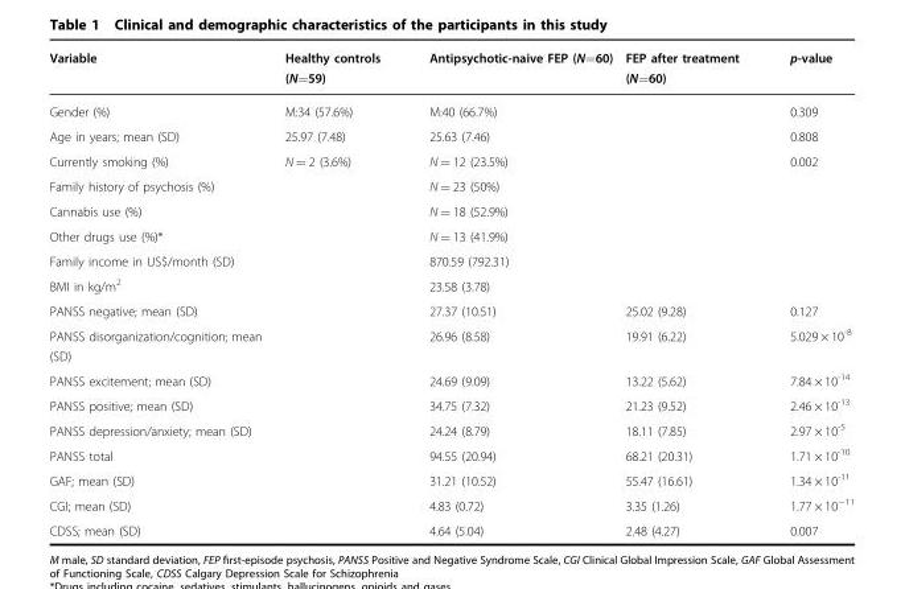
<table><thead><tr><td>Variable</td><td>Healthy controls (N=59)</td><td>Antipsychotic-naive FEP (N=60)</td><td>FEP after treatment (N=60)</td><td>p-value</td></tr></thead><tbody><tr><td>Gender (%)</td><td>M:34 (57.6%)</td><td>M:40 (66.7%)</td><td></td><td>0.309</td></tr><tr><td>Age in years; mean (SD)</td><td>25.97 (7.48)</td><td>25.63 (7.46)</td><td></td><td>0.808</td></tr><tr><td>Currently smoking (%)</td><td>N = 2 (3.6%)</td><td>N = 12 (23.5%)</td><td></td><td>0.002</td></tr><tr><td>Family history of psychosis (%)</td><td></td><td>N = 23 (50%)</td><td></td><td></td></tr><tr><td>Cannabis use (%)</td><td></td><td>N = 18 (52.9%)</td><td></td><td></td></tr><tr><td>Other drugs use (%)*</td><td></td><td>N = 13 (41.9%)</td><td></td><td></td></tr><tr><td>Family income in US$/month (SD)</td><td></td><td>870.59 (792.31)</td><td></td><td></td></tr><tr><td>BMI in kg/m<sup>2</sup></td><td></td><td>23.58 (3.78)</td><td></td><td></td></tr><tr><td>PANSS negative; mean (SD)</td><td></td><td>27.37 (10.51)</td><td>25.02 (9.28)</td><td>0.127</td></tr><tr><td>PANSS disorganization/cognition; mean (SD)</td><td></td><td>26.96 (8.58)</td><td>19.91 (6.22)</td><td>5.029 × 10<sup>-8</sup></td></tr><tr><td>PANSS excitement; mean (SD)</td><td></td><td>24.69 (9.09)</td><td>13.22 (5.62)</td><td>7.84 × 10<sup>-14</sup></td></tr><tr><td>PANSS positive; mean (SD)</td><td></td><td>34.75 (7.32)</td><td>21.23 (9.52)</td><td>2.46 × 10<sup>-13</sup></td></tr><tr><td>PANSS depression/anxiety; mean (SD)</td><td></td><td>24.24 (8.79)</td><td>18.11 (7.85)</td><td>2.97 × 10<sup>-5</sup></td></tr><tr><td>PANSS total</td><td></td><td>94.55 (20.94)</td><td>68.21 (20.31)</td><td>1.71 × 10<sup>-10</sup></td></tr><tr><td>GAF; mean (SD)</td><td></td><td>31.21 (10.52)</td><td>55.47 (16.61)</td><td>1.34 × 10<sup>-11</sup></td></tr><tr><td>CGI; mean (SD)</td><td></td><td>4.83 (0.72)</td><td>3.35 (1.26)</td><td>1.77 × 10<sup>−11</sup></td></tr><tr><td>CDSS; mean (SD)</td><td></td><td>4.64 (5.04)</td><td>2.48 (4.27)</td><td>0.007</td></tr></tbody></table>